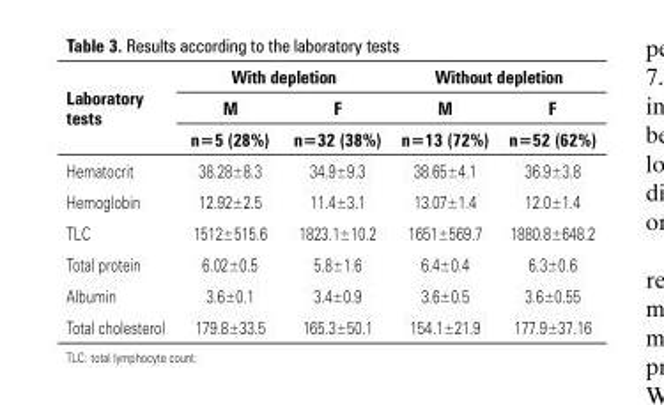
<table><thead><tr><td rowspan="3">Laboratory tests</td><td colspan="2">With depletion</td><td colspan="2">Without depletion</td></tr><tr><td rowspan="2">M n=5 (28%)</td><td rowspan="2">F n=32 (38%)</td><td rowspan="2">M n=13 (72%)</td><td rowspan="2">F n=52 (62%)</td></tr><tr></tr></thead><tbody><tr><td>Hematocrit</td><td>38.28±8.3</td><td>34.9±9.3</td><td>38.65±4.1</td><td>36.9±3.8</td></tr><tr><td>Hemoglobin</td><td>12.92±2.5</td><td>11.4±3.1</td><td>13.07±1.4</td><td>12.0±1.4</td></tr><tr><td>TLC</td><td>1512±515.6</td><td>1823.1±10.2</td><td>1651±569.7</td><td>1880.8±648.2</td></tr><tr><td>Total protein</td><td>6.02±0.5</td><td>5.8±1.6</td><td>6.4±0.4</td><td>6.3±0.6</td></tr><tr><td>Albumin</td><td>3.6±0.1</td><td>3.4±0.9</td><td>3.6±0.5</td><td>3.6±0.55</td></tr><tr><td>Total cholesterol</td><td>179.8±33.5</td><td>165.3±50.1</td><td>154.1±21.9</td><td>177.9±37.16</td></tr></tbody></table>